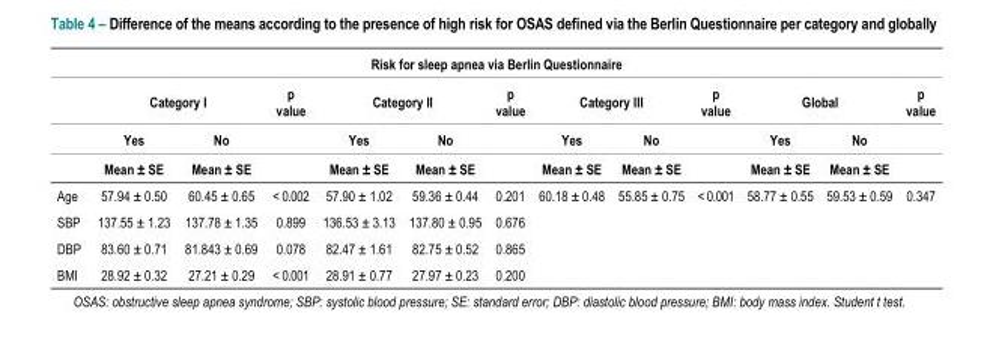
<table><thead><tr><td colspan="13">Risk for sleep apnea via Berlin Questionnaire</td></tr><tr><td rowspan="3"></td><td colspan="2">Category I</td><td rowspan="3">p value</td><td colspan="2">Category II</td><td rowspan="3">p value</td><td colspan="2">Category III</td><td rowspan="3">p value</td><td colspan="2">Global</td><td rowspan="3">p value</td></tr><tr><td rowspan="2">Yes Mean ± SE</td><td rowspan="2">No Mean ± SE</td><td rowspan="2">Yes Mean ± SE</td><td rowspan="2">No Mean ± SE</td><td rowspan="2">Yes Mean ± SE</td><td rowspan="2">No Mean ± SE</td><td rowspan="2">Yes Mean ± SE</td><td rowspan="2">No Mean ± SE</td></tr><tr></tr></thead><tbody><tr><td>Age</td><td>57.94 ± 0.50</td><td>60.45 ± 0.65</td><td>&lt; 0.002</td><td>57.90 ± 1.02</td><td>59.36 ± 0.44</td><td>0.201</td><td>60.18 ± 0.48</td><td>55.85 ± 0.75</td><td>&lt; 0.001</td><td>58.77 ± 0.55</td><td>59.53 ± 0.59</td><td>0.347</td></tr><tr><td>SBP</td><td>137.55 ± 1.23</td><td>137.78 ± 1.35</td><td>0.899</td><td>136.53 ± 3.13</td><td>137.80 ± 0.95</td><td>0.676</td><td></td><td></td><td></td><td></td><td></td><td></td></tr><tr><td>DBP</td><td>83.60 ± 0.71</td><td>81.843 ± 0.69</td><td>0.078</td><td>82.47 ± 1.61</td><td>82.75 ± 0.52</td><td>0.865</td><td></td><td></td><td></td><td></td><td></td><td></td></tr><tr><td>BMI</td><td>28.92 ± 0.32</td><td>27.21 ± 0.29</td><td>&lt; 0.001</td><td>28.91 ± 0.77</td><td>27.97 ± 0.23</td><td>0.200</td><td></td><td></td><td></td><td></td><td></td><td></td></tr></tbody></table>